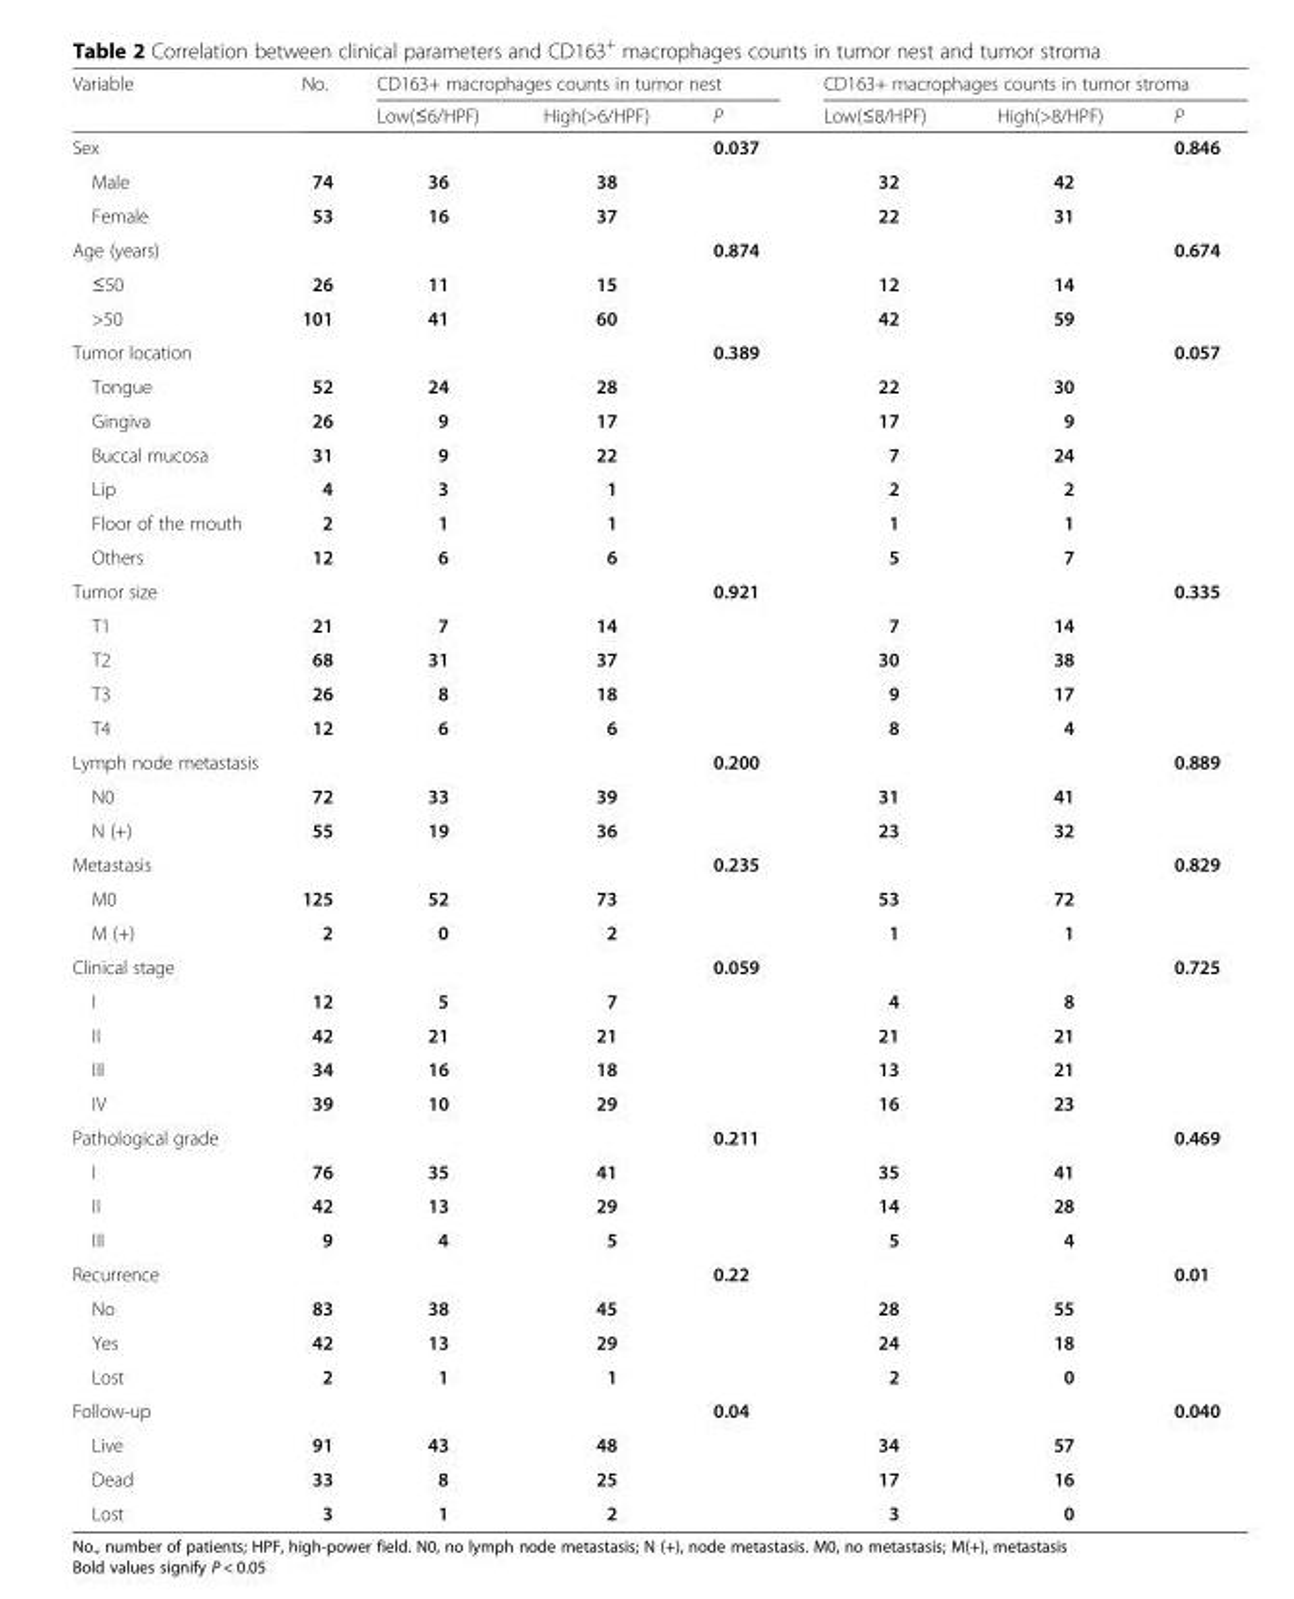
<table><thead><tr><td rowspan="2">Variable</td><td rowspan="2">No.</td><td colspan="3">CD163+ macrophages counts in tumor nest</td><td colspan="3">CD163+ macrophages counts in tumor stroma</td></tr><tr><td>Low(≤6/HPF)</td><td>High(&gt;6/HPF)</td><td>P</td><td>Low(≤8/HPF)</td><td>High(&gt;8/HPF)</td><td>P</td></tr></thead><tbody><tr><td>Sex</td><td></td><td></td><td></td><td>0.037</td><td></td><td></td><td>0.846</td></tr><tr><td>Male</td><td>74</td><td>36</td><td>38</td><td></td><td>32</td><td>42</td><td></td></tr><tr><td>Female</td><td>53</td><td>16</td><td>37</td><td></td><td>22</td><td>31</td><td></td></tr><tr><td>Age (years)</td><td></td><td></td><td></td><td>0.874</td><td></td><td></td><td>0.674</td></tr><tr><td>≤50</td><td>26</td><td>11</td><td>15</td><td></td><td>12</td><td>14</td><td></td></tr><tr><td>&gt;50</td><td>101</td><td>41</td><td>60</td><td></td><td>42</td><td>59</td><td></td></tr><tr><td>Tumor location</td><td></td><td></td><td></td><td>0.389</td><td></td><td></td><td>0.057</td></tr><tr><td>Tongue</td><td>52</td><td>24</td><td>28</td><td></td><td>22</td><td>30</td><td></td></tr><tr><td>Gingiva</td><td>26</td><td>9</td><td>17</td><td></td><td>17</td><td>9</td><td></td></tr><tr><td>Buccal mucosa</td><td>31</td><td>9</td><td>22</td><td></td><td>7</td><td>24</td><td></td></tr><tr><td>Lip</td><td>4</td><td>3</td><td>1</td><td></td><td>2</td><td>2</td><td></td></tr><tr><td>Floor of the mouth</td><td>2</td><td>1</td><td>1</td><td></td><td>1</td><td>1</td><td></td></tr><tr><td>Others</td><td>12</td><td>6</td><td>6</td><td></td><td>5</td><td>7</td><td></td></tr><tr><td>Tumor size</td><td></td><td></td><td></td><td>0.921</td><td></td><td></td><td>0.335</td></tr><tr><td>T1</td><td>21</td><td>7</td><td>14</td><td></td><td>7</td><td>14</td><td></td></tr><tr><td>T2</td><td>68</td><td>31</td><td>37</td><td></td><td>30</td><td>38</td><td></td></tr><tr><td>T3</td><td>26</td><td>8</td><td>18</td><td></td><td>9</td><td>17</td><td></td></tr><tr><td>T4</td><td>12</td><td>6</td><td>6</td><td></td><td>8</td><td>4</td><td></td></tr><tr><td>Lymph node metastasis</td><td></td><td></td><td></td><td>0.200</td><td></td><td></td><td>0.889</td></tr><tr><td>N0</td><td>72</td><td>33</td><td>39</td><td></td><td>31</td><td>41</td><td></td></tr><tr><td>N (+)</td><td>55</td><td>19</td><td>36</td><td></td><td>23</td><td>32</td><td></td></tr><tr><td>Metastasis</td><td></td><td></td><td></td><td>0.235</td><td></td><td></td><td>0.829</td></tr><tr><td>M0</td><td>125</td><td>52</td><td>73</td><td></td><td>53</td><td>72</td><td></td></tr><tr><td>M (+)</td><td>2</td><td>0</td><td>2</td><td></td><td>1</td><td>1</td><td></td></tr><tr><td>Clinical stage</td><td></td><td></td><td></td><td>0.059</td><td></td><td></td><td>0.725</td></tr><tr><td>I</td><td>12</td><td>5</td><td>7</td><td></td><td>4</td><td>8</td><td></td></tr><tr><td>II</td><td>42</td><td>21</td><td>21</td><td></td><td>21</td><td>21</td><td></td></tr><tr><td>III</td><td>34</td><td>16</td><td>18</td><td></td><td>13</td><td>21</td><td></td></tr><tr><td>IV</td><td>39</td><td>10</td><td>29</td><td></td><td>16</td><td>23</td><td></td></tr><tr><td>Pathological grade</td><td></td><td></td><td></td><td>0.211</td><td></td><td></td><td>0.469</td></tr><tr><td>I</td><td>76</td><td>35</td><td>41</td><td></td><td>35</td><td>41</td><td></td></tr><tr><td>II</td><td>42</td><td>13</td><td>29</td><td></td><td>14</td><td>28</td><td></td></tr><tr><td>III</td><td>9</td><td>4</td><td>5</td><td></td><td>5</td><td>4</td><td></td></tr><tr><td>Recurrence</td><td></td><td></td><td></td><td>0.22</td><td></td><td></td><td>0.01</td></tr><tr><td>No</td><td>83</td><td>38</td><td>45</td><td></td><td>28</td><td>55</td><td></td></tr><tr><td>Yes</td><td>42</td><td>13</td><td>29</td><td></td><td>24</td><td>18</td><td></td></tr><tr><td>Lost</td><td>2</td><td>1</td><td>1</td><td></td><td>2</td><td>0</td><td></td></tr><tr><td>Follow-up</td><td></td><td></td><td></td><td>0.04</td><td></td><td></td><td>0.040</td></tr><tr><td>Live</td><td>91</td><td>43</td><td>48</td><td></td><td>34</td><td>57</td><td></td></tr><tr><td>Dead</td><td>33</td><td>8</td><td>25</td><td></td><td>17</td><td>16</td><td></td></tr><tr><td>Lost</td><td>3</td><td>1</td><td>2</td><td></td><td>3</td><td>0</td><td></td></tr></tbody></table>